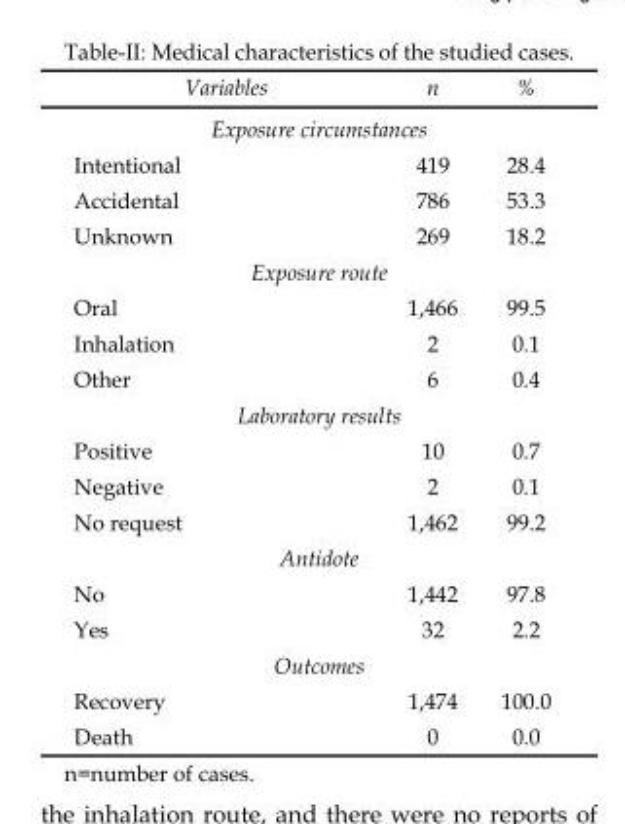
<table><thead><tr><td>Variables</td><td>n</td><td>%</td></tr></thead><tbody><tr><td colspan="3">Exposure circumstances</td></tr><tr><td>Intentional</td><td>419</td><td>28.4</td></tr><tr><td>Accidental</td><td>786</td><td>53.3</td></tr><tr><td>Unknown</td><td>269</td><td>18.2</td></tr><tr><td colspan="3">Exposure route</td></tr><tr><td>Oral</td><td>1,466</td><td>99.5</td></tr><tr><td>Inhalation</td><td>2</td><td>0.1</td></tr><tr><td>Other</td><td>6</td><td>0.4</td></tr><tr><td colspan="3">Laboratory results</td></tr><tr><td>Positive</td><td>10</td><td>0.7</td></tr><tr><td>Negative</td><td>2</td><td>0.1</td></tr><tr><td>No request</td><td>1,462</td><td>99.2</td></tr><tr><td colspan="3">Antidote</td></tr><tr><td>No</td><td>1,442</td><td>97.8</td></tr><tr><td>Yes</td><td>32</td><td>2.2</td></tr><tr><td colspan="3">Outcomes</td></tr><tr><td>Recovery</td><td>1,474</td><td>100.0</td></tr><tr><td>Death</td><td>0</td><td>0.0</td></tr></tbody></table>